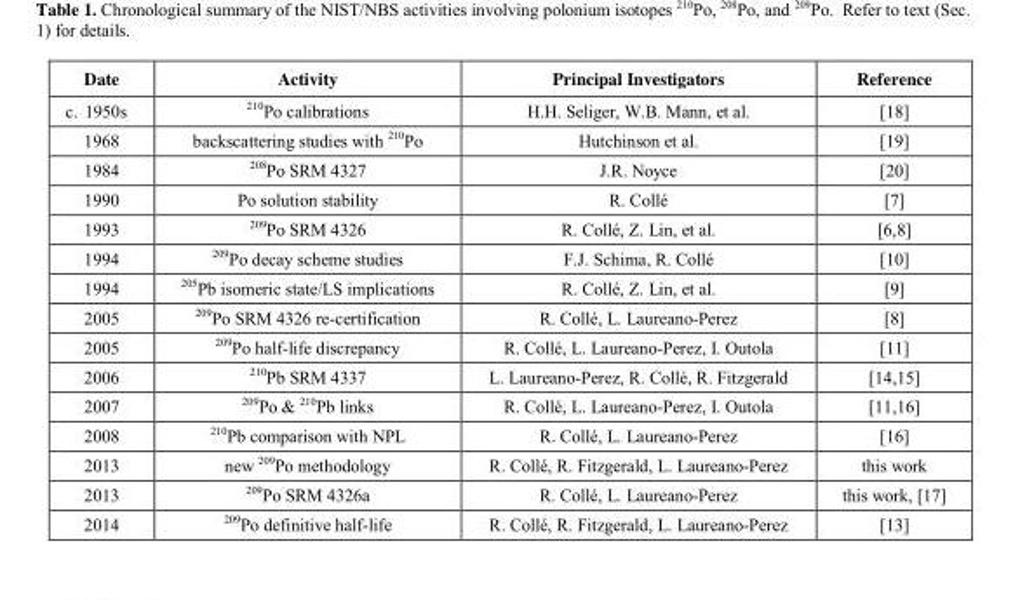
<table><thead><tr><td>Date</td><td>Activity</td><td>Principal Investigators</td><td>Reference</td></tr></thead><tbody><tr><td>c. 1950s</td><td><sup>210</sup>Po calibrations</td><td>H.H. Seliger, W.B. Mann, et al.</td><td>[18]</td></tr><tr><td>1968</td><td>backscattering studies with <sup>210</sup>Po</td><td>Hutchinson et al.</td><td>[19]</td></tr><tr><td>1984</td><td><sup>208</sup>Po SRM 4327</td><td>J.R. Noyce</td><td>[20]</td></tr><tr><td>1990</td><td>Po solution stability</td><td>R. Collé</td><td>[7]</td></tr><tr><td>1993</td><td><sup>209</sup>Po SRM 4326</td><td>R. Collé, Z. Lin, et al.</td><td>[6,8]</td></tr><tr><td>1994</td><td><sup>209</sup>Po decay scheme studies</td><td>F.J. Schima, R. Collé</td><td>[10]</td></tr><tr><td>1994</td><td><sup>205</sup>Pb isomeric state/LS implications</td><td>R. Collé, Z. Lin, et al.</td><td>[9]</td></tr><tr><td>2005</td><td><sup>209</sup>Po SRM 4326 re-certification</td><td>R. Collé, L. Laureano-Perez</td><td>[8]</td></tr><tr><td>2005</td><td><sup>209</sup>Po half-life discrepancy</td><td>R. Collé, L. Laureano-Perez, I. Outola</td><td>[11]</td></tr><tr><td>2006</td><td><sup>210</sup>Pb SRM 4337</td><td>L. Laureano-Perez, R. Collé, R. Fitzgerald</td><td>[14,15]</td></tr><tr><td>2007</td><td><sup>209</sup>Po &amp; <sup>210</sup>Pb links</td><td>R. Collé, L. Laureano-Perez, I. Outola</td><td>[11,16]</td></tr><tr><td>2008</td><td><sup>210</sup>Pb comparison with NPL</td><td>R. Collé, L. Laureano-Perez</td><td>[16]</td></tr><tr><td>2013</td><td>new <sup>209</sup>Po methodology</td><td>R. Collé, R. Fitzgerald, L. Laureano-Perez</td><td>this work</td></tr><tr><td>2013</td><td><sup>209</sup>Po SRM 4326a</td><td>R. Collé, L. Laureano-Perez</td><td>this work, <sup>[17]</sup></td></tr><tr><td>2014</td><td><sup>209</sup>Po definitive half-life</td><td>R. Collé, R. Fitzgerald, L. Laureano-Perez</td><td>[13]</td></tr></tbody></table>